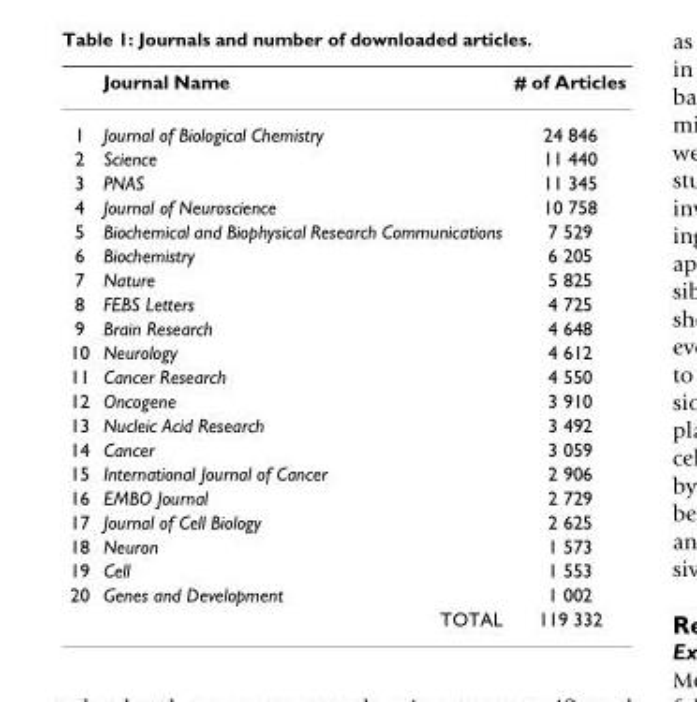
<table><thead><tr><td></td><td>Journal Name</td><td># of Articles</td></tr></thead><tbody><tr><td>1</td><td>Journal of Biological Chemistry</td><td>24 846</td></tr><tr><td>2</td><td>Science</td><td>11 440</td></tr><tr><td>3</td><td>PNAS</td><td>11 345</td></tr><tr><td>4</td><td>Journal of Neuroscience</td><td>10 758</td></tr><tr><td>5</td><td>Biochemical and Biophysical Research Communications</td><td>7 529</td></tr><tr><td>6</td><td>Biochemistry</td><td>6 205</td></tr><tr><td>7</td><td>Nature</td><td>5 825</td></tr><tr><td>8</td><td>FEBS Letters</td><td>4 725</td></tr><tr><td>9</td><td>Brain Research</td><td>4 648</td></tr><tr><td>10</td><td>Neurology</td><td>4 612</td></tr><tr><td>11</td><td>Cancer Research</td><td>4 550</td></tr><tr><td>12</td><td>Oncogene</td><td>3 910</td></tr><tr><td>13</td><td>Nucleic Acid Research</td><td>3 492</td></tr><tr><td>14</td><td>Cancer</td><td>3 059</td></tr><tr><td>15</td><td>International Journal of Cancer</td><td>2 906</td></tr><tr><td>16</td><td>EMBO Journal</td><td>2 729</td></tr><tr><td>17</td><td>Journal of Cell Biology</td><td>2 625</td></tr><tr><td>18</td><td>Neuron</td><td>1 573</td></tr><tr><td>19</td><td>Cell</td><td>1 553</td></tr><tr><td rowspan="2">20</td><td>Genes and Development</td><td>1 002</td></tr><tr><td>TOTAL</td><td>119 332</td></tr></tbody></table>